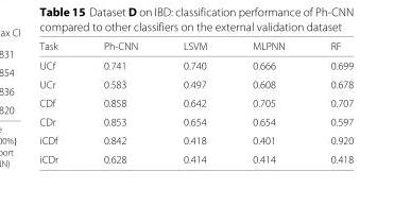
<table><thead><tr><td>Task</td><td>Ph-CNN</td><td>LSVM</td><td>MLPNN</td><td>RF</td></tr></thead><tbody><tr><td>UCf</td><td>0.741</td><td>0.740</td><td>0.666</td><td>0.699</td></tr><tr><td>UCr</td><td>0.583</td><td>0.497</td><td>0.608</td><td>0.678</td></tr><tr><td>CDf</td><td>0.858</td><td>0.642</td><td>0.705</td><td>0.707</td></tr><tr><td>CDr</td><td>0.853</td><td>0.654</td><td>0.654</td><td>0.597</td></tr><tr><td>iCDf</td><td>0.842</td><td>0.418</td><td>0.401</td><td>0.920</td></tr><tr><td>iCDr</td><td>0.628</td><td>0.414</td><td>0.414</td><td>0.418</td></tr></tbody></table>